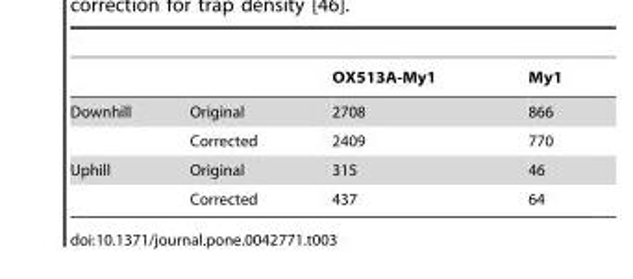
<table><thead><tr><td></td><td></td><td>OX513A-My1</td><td>My1</td></tr></thead><tbody><tr><td rowspan="2">Downhill</td><td>Original</td><td>2708</td><td>866</td></tr><tr><td>Corrected</td><td>2409</td><td>770</td></tr><tr><td rowspan="2">Uphill</td><td>Original</td><td>315</td><td>46</td></tr><tr><td>Corrected</td><td>437</td><td>64</td></tr></tbody></table>